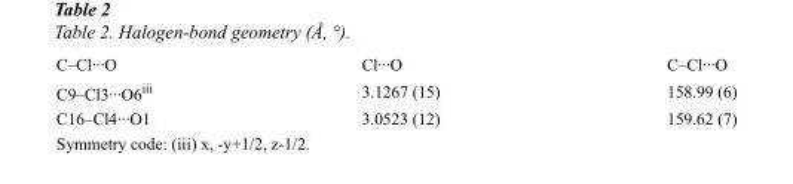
<table><tbody><tr><td>C–Cl···O</td><td>Cl···O</td><td>C–Cl···O</td></tr><tr><td>C9–Cl3···O6<sup>iii</sup></td><td>3.1267 (15)</td><td>158.99 (6)</td></tr><tr><td>C16–Cl4···O1</td><td>3.0523 (12)</td><td>159.62 (7)</td></tr></tbody></table>